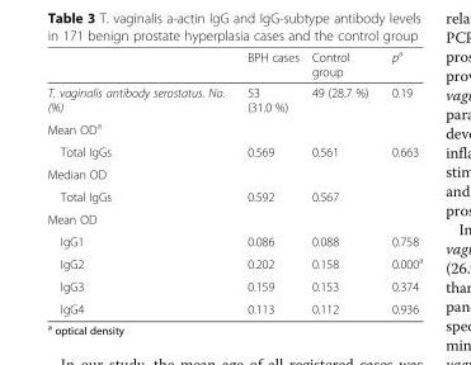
<table><thead><tr><td></td><td>BPH cases</td><td>Control group</td><td>p<sup>a</sup></td></tr></thead><tbody><tr><td>T. vaginalis antibody serostatus. No. (%)</td><td>53 (31.0 %)</td><td>49 (28.7 %)</td><td>0.19</td></tr><tr><td colspan="4">Mean OD<sup>a</sup></td></tr><tr><td>Total IgGs</td><td>0.569</td><td>0.561</td><td>0.663</td></tr><tr><td colspan="4">Median OD</td></tr><tr><td>Total IgGs</td><td>0.592</td><td>0.567</td><td></td></tr><tr><td colspan="4">Mean OD</td></tr><tr><td>IgG1</td><td>0.086</td><td>0.088</td><td>0.758</td></tr><tr><td>IgG2</td><td>0.202</td><td>0.158</td><td>0.000<sup>a</sup></td></tr><tr><td>IgG3</td><td>0.159</td><td>0.153</td><td>0.374</td></tr><tr><td>IgG4</td><td>0.113</td><td>0.112</td><td>0.936</td></tr></tbody></table>